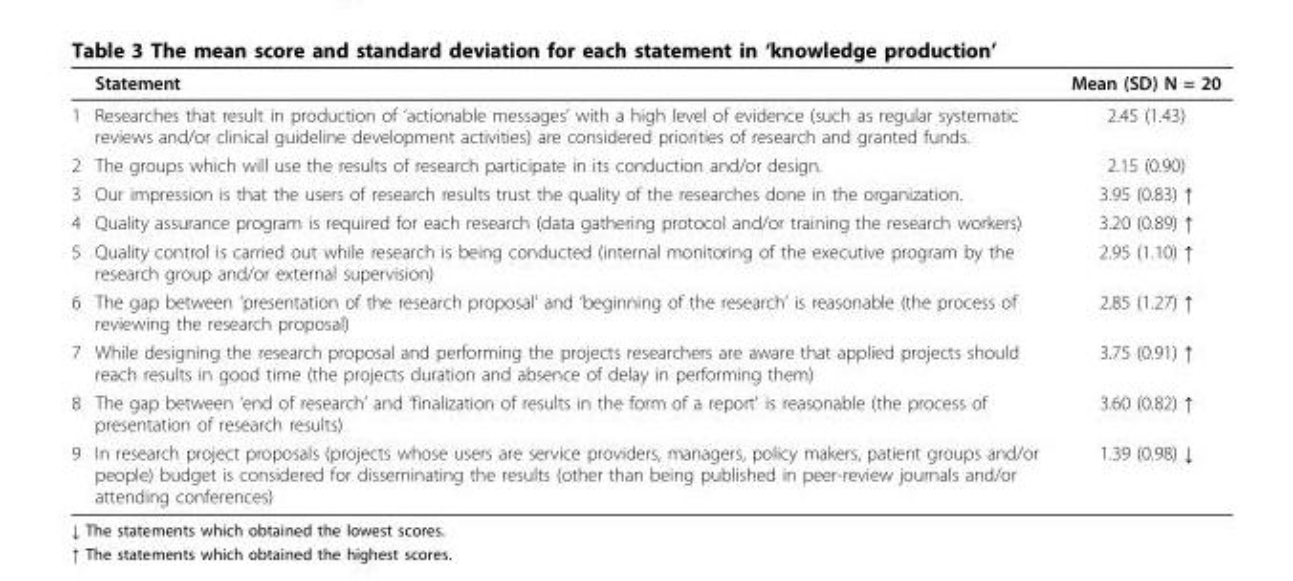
<table><thead><tr><td></td><td>Statement</td><td>Mean (SD) N = 20</td></tr></thead><tbody><tr><td>1</td><td>Researches that result in production of ‘actionable messages’ with a high level of evidence (such as regular systematic reviews and/or clinical guideline development activities) are considered priorities of research and granted funds.</td><td>2.45 (1.43)</td></tr><tr><td>2</td><td>The groups which will use the results of research participate in its conduction and/or design.</td><td>2.15 (0.90)</td></tr><tr><td>3</td><td>Our impression is that the users of research results trust the quality of the researches done in the organization.</td><td>3.95 (0.83) ↑</td></tr><tr><td>4</td><td>Quality assurance program is required for each research (data gathering protocol and/or training the research workers)</td><td>3.20 (0.89) ↑</td></tr><tr><td>5</td><td>Quality control is carried out while research is being conducted (internal monitoring of the executive program by the research group and/or external supervision)</td><td>2.95 (1.10) ↑</td></tr><tr><td>6</td><td>The gap between ‘presentation of the research proposal’ and ‘beginning of the research’ is reasonable (the process of reviewing the research proposal)</td><td>2.85 (1.27) ↑</td></tr><tr><td>7</td><td>While designing the research proposal and performing the projects researchers are aware that applied projects should reach results in good time (the projects duration and absence of delay in performing them)</td><td>3.75 (0.91) ↑</td></tr><tr><td>8</td><td>The gap between ‘end of research’ and ‘finalization of results in the form of a report’ is reasonable (the process of presentation of research results)</td><td>3.60 (0.82) ↑</td></tr><tr><td>9</td><td>In research project proposals (projects whose users are service providers, managers, policy makers, patient groups and/or people) budget is considered for disseminating the results (other than being published in peer-review journals and/or attending conferences)</td><td>1.39 (0.98) ↓</td></tr></tbody></table>